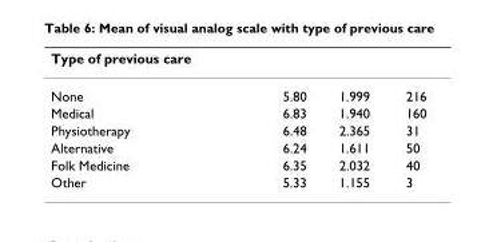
<table><thead><tr><td>Type of previous care</td><td></td><td></td><td></td></tr></thead><tbody><tr><td>None</td><td>5.80</td><td>1.999</td><td>216</td></tr><tr><td>Medical</td><td>6.83</td><td>1.940</td><td>160</td></tr><tr><td>Physiotherapy</td><td>6.48</td><td>2.365</td><td>31</td></tr><tr><td>Alternative</td><td>6.24</td><td>1.611</td><td>50</td></tr><tr><td>Folk Medicine</td><td>6.35</td><td>2.032</td><td>40</td></tr><tr><td>Other</td><td>5.33</td><td>1.155</td><td>3</td></tr></tbody></table>